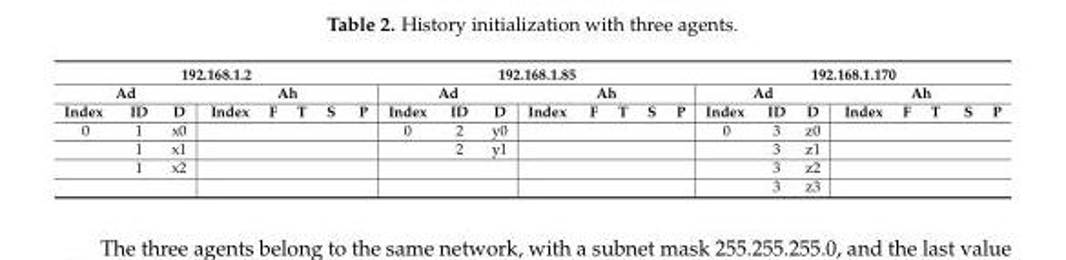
<table><thead><tr><td colspan="8">192.168.1.2</td><td colspan="8">192.168.1.85</td><td colspan="8">192.168.1.170</td></tr><tr><td colspan="3">Ad</td><td colspan="5">Ah</td><td colspan="3">Ad</td><td colspan="5">Ah</td><td colspan="3">Ad</td><td colspan="5">Ah</td></tr><tr><td>Index</td><td>ID</td><td>D</td><td>Index</td><td>F</td><td>T</td><td>S</td><td>P</td><td>Index</td><td>ID</td><td>D</td><td>Index</td><td>F</td><td>T</td><td>S</td><td>P</td><td>Index</td><td>ID</td><td>D</td><td>Index</td><td>F</td><td>T</td><td>S</td><td>P</td></tr></thead><tbody><tr><td rowspan="4">0</td><td>1</td><td>x0</td><td></td><td></td><td></td><td></td><td></td><td>0</td><td>2</td><td>y0</td><td></td><td></td><td></td><td></td><td></td><td>0</td><td>3</td><td>z0</td><td></td><td></td><td></td><td></td><td></td></tr><tr><td>1</td><td>x1</td><td></td><td></td><td></td><td></td><td></td><td></td><td>2</td><td>y1</td><td></td><td></td><td></td><td></td><td></td><td></td><td>3</td><td>z1</td><td></td><td></td><td></td><td></td><td></td></tr><tr><td>1</td><td>x2</td><td></td><td></td><td></td><td></td><td></td><td></td><td></td><td></td><td></td><td></td><td></td><td></td><td></td><td></td><td>3</td><td>z2</td><td></td><td></td><td></td><td></td><td></td></tr><tr><td></td><td></td><td></td><td></td><td></td><td></td><td></td><td></td><td></td><td></td><td></td><td></td><td></td><td></td><td></td><td></td><td>3</td><td>z3</td><td></td><td></td><td></td><td></td><td></td></tr></tbody></table>